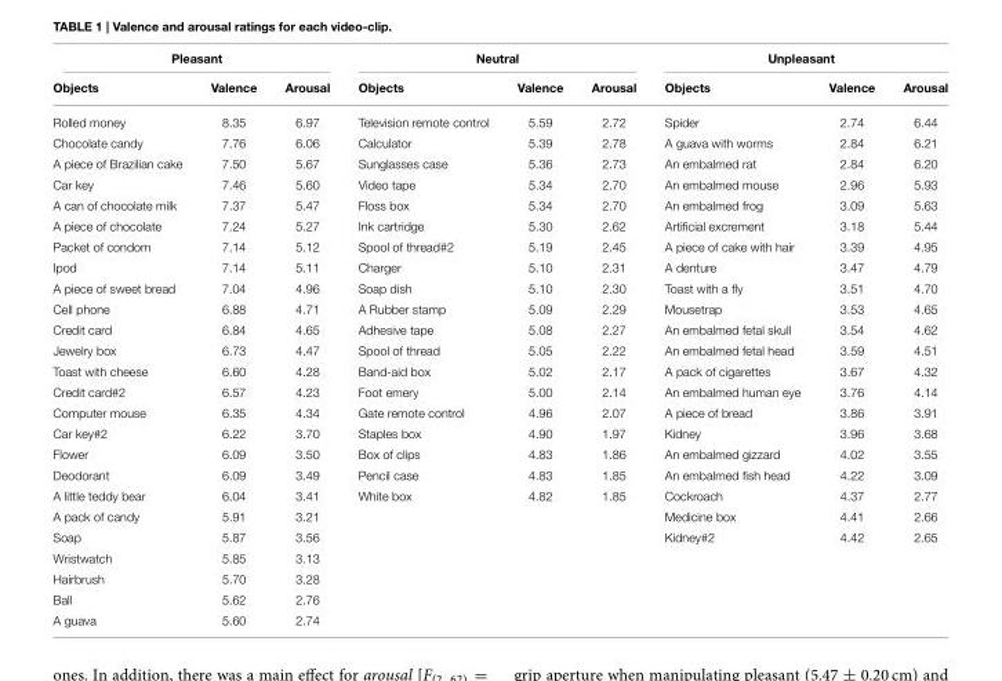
<table><thead><tr><td colspan="3">Pleasant</td><td colspan="3">Neutral</td><td colspan="3">Unpleasant</td></tr><tr><td>Objects</td><td>Valence</td><td>Arousal</td><td>Objects</td><td>Valence</td><td>Arousal</td><td>Objects</td><td>Valence</td><td>Arousal</td></tr></thead><tbody><tr><td>Rolled money</td><td>8.35</td><td>6.97</td><td>Television remote control</td><td>5.59</td><td>2.72</td><td>Spider</td><td>2.74</td><td>6.44</td></tr><tr><td>Chocolate candy</td><td>7.76</td><td>6.06</td><td>Calculator</td><td>5.39</td><td>2.78</td><td>A guava with worms</td><td>2.84</td><td>6.21</td></tr><tr><td>A piece of Brazilian cake</td><td>7.50</td><td>5.67</td><td>Sunglasses case</td><td>5.36</td><td>2.73</td><td>An embalmed rat</td><td>2.84</td><td>6.20</td></tr><tr><td>Car key</td><td>7.46</td><td>5.60</td><td>Video tape</td><td>5.34</td><td>2.70</td><td>An embalmed mouse</td><td>2.96</td><td>5.93</td></tr><tr><td>A can of chocolate milk</td><td>7.37</td><td>5.47</td><td>Floss box</td><td>5.34</td><td>2.70</td><td>An embalmed frog</td><td>3.09</td><td>5.63</td></tr><tr><td>A piece of chocolate</td><td>7.24</td><td>5.27</td><td>Ink cartridge</td><td>5.30</td><td>2.62</td><td>Artificial excrement</td><td>3.18</td><td>5.44</td></tr><tr><td>Packet of condom</td><td>7.14</td><td>5.12</td><td>Spool of thread#2</td><td>5.19</td><td>2.45</td><td>A piece of cake with hair</td><td>3.39</td><td>4.95</td></tr><tr><td>Ipod</td><td>7.14</td><td>5.11</td><td>Charger</td><td>5.10</td><td>2.31</td><td>A denture</td><td>3.47</td><td>4.79</td></tr><tr><td>A piece of sweet bread</td><td>7.04</td><td>4.96</td><td>Soap dish</td><td>5.10</td><td>2.30</td><td>Toast with a fly</td><td>3.51</td><td>4.70</td></tr><tr><td>Cell phone</td><td>6.88</td><td>4.71</td><td>A Rubber stamp</td><td>5.09</td><td>2.29</td><td>Mousetrap</td><td>3.53</td><td>4.65</td></tr><tr><td>Credit card</td><td>6.84</td><td>4.65</td><td>Adhesive tape</td><td>5.08</td><td>2.27</td><td>An embalmed fetal skull</td><td>3.54</td><td>4.62</td></tr><tr><td>Jewelry box</td><td>6.73</td><td>4.47</td><td>Spool of thread</td><td>5.05</td><td>2.22</td><td>An embalmed fetal head</td><td>3.59</td><td>4.51</td></tr><tr><td>Toast with cheese</td><td>6.60</td><td>4.28</td><td>Band-aid box</td><td>5.02</td><td>2.17</td><td>A pack of cigarettes</td><td>3.67</td><td>4.32</td></tr><tr><td>Credit card#2</td><td>6.57</td><td>4.23</td><td>Foot emery</td><td>5.00</td><td>2.14</td><td>An embalmed human eye</td><td>3.76</td><td>4.14</td></tr><tr><td>Computer mouse</td><td>6.35</td><td>4.34</td><td>Gate remote control</td><td>4.96</td><td>2.07</td><td>A piece of bread</td><td>3.86</td><td>3.91</td></tr><tr><td>Car key#2</td><td>6.22</td><td>3.70</td><td>Staples box</td><td>4.90</td><td>1.97</td><td>Kidney</td><td>3.96</td><td>3.68</td></tr><tr><td>Flower</td><td>6.09</td><td>3.50</td><td>Box of clips</td><td>4.83</td><td>1.86</td><td>An embalmed gizzard</td><td>4.02</td><td>3.55</td></tr><tr><td>Deodorant</td><td>6.09</td><td>3.49</td><td>Pencil case</td><td>4.83</td><td>1.85</td><td>An embalmed fish head</td><td>4.22</td><td>3.09</td></tr><tr><td>A little teddy bear</td><td>6.04</td><td>3.41</td><td>White box</td><td>4.82</td><td>1.85</td><td>Cockroach</td><td>4.37</td><td>2.77</td></tr><tr><td>A pack of candy</td><td>5.91</td><td>3.21</td><td></td><td></td><td></td><td>Medicine box</td><td>4.41</td><td>2.66</td></tr><tr><td>Soap</td><td>5.87</td><td>3.56</td><td></td><td></td><td></td><td>Kidney#2</td><td>4.42</td><td>2.65</td></tr><tr><td>Wristwatch</td><td>5.85</td><td>3.13</td><td></td><td></td><td></td><td></td><td></td><td></td></tr><tr><td>Hairbrush</td><td>5.70</td><td>3.28</td><td></td><td></td><td></td><td></td><td></td><td></td></tr><tr><td>Ball</td><td>5.62</td><td>2.76</td><td></td><td></td><td></td><td></td><td></td><td></td></tr><tr><td>A guava</td><td>5.60</td><td>2.74</td><td></td><td></td><td></td><td></td><td></td><td></td></tr></tbody></table>